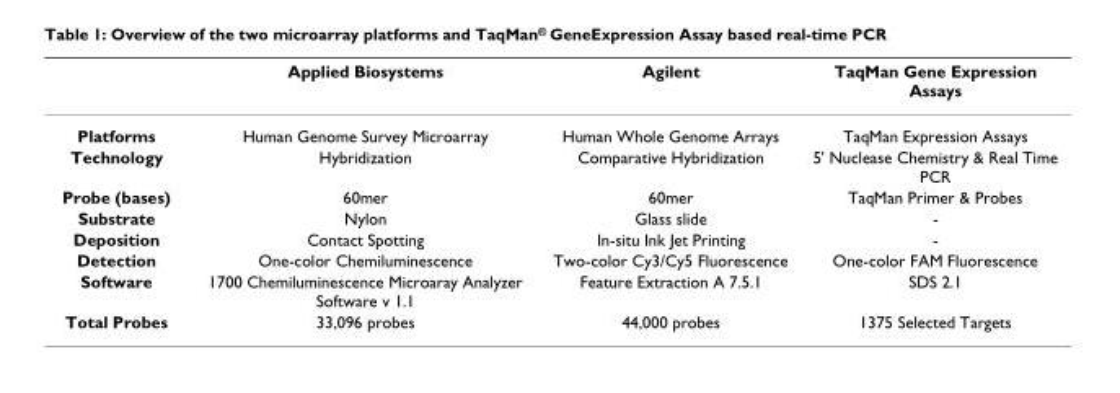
<table><thead><tr><td></td><td>Applied Biosystems</td><td>Agilent</td><td>TaqMan Gene Expression Assays</td></tr></thead><tbody><tr><td>Platforms</td><td>Human Genome Survey Microarray</td><td>Human Whole Genome Arrays</td><td>TaqMan Expression Assays</td></tr><tr><td>Technology</td><td>Hybridization</td><td>Comparative Hybridization</td><td>5&#x27; Nuclease Chemistry &amp; Real Time PCR</td></tr><tr><td>Probe (bases)</td><td>60mer</td><td>60mer</td><td>TaqMan Primer &amp; Probes</td></tr><tr><td>Substrate</td><td>Nylon</td><td>Glass slide</td><td>-</td></tr><tr><td>Deposition</td><td>Contact Spotting</td><td>In-situ Ink Jet Printing</td><td>-</td></tr><tr><td>Detection</td><td>One-color Chemiluminescence</td><td>Two-color Cy3/Cy5 Fluorescence</td><td>One-color FAM Fluorescence</td></tr><tr><td>Software</td><td>1700 Chemiluminescence Microaray Analyzer Software v 1.1</td><td>Feature Extraction A 7.5.1</td><td>SDS 2.1</td></tr><tr><td>Total Probes</td><td>33,096 probes</td><td>44,000 probes</td><td>1375 Selected Targets</td></tr></tbody></table>